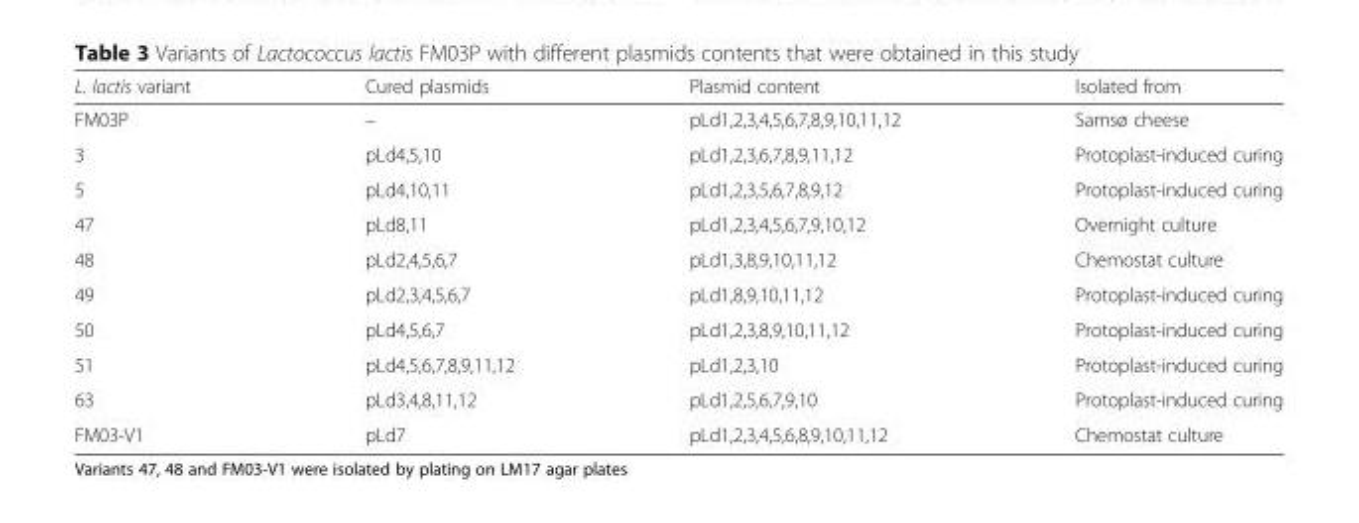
<table><thead><tr><td>L. lactis variant</td><td>Cured plasmids</td><td>Plasmid content</td><td>Isolated from</td></tr></thead><tbody><tr><td>FM03P</td><td>–</td><td>pLd1,2,3,4,5,6,7,8,9,10,11,12</td><td>Samsø cheese</td></tr><tr><td>3</td><td>pLd4,5,10</td><td>pLd1,2,3,6,7,8,9,11,12</td><td>Protoplast-induced curing</td></tr><tr><td>5</td><td>pLd4,10,11</td><td>pLd1,2,3,5,6,7,8,9,12</td><td>Protoplast-induced curing</td></tr><tr><td>47</td><td>pLd8,11</td><td>pLd1,2,3,4,5,6,7,9,10,12</td><td>Overnight culture</td></tr><tr><td>48</td><td>pLd2,4,5,6,7</td><td>pLd1,3,8,9,10,11,12</td><td>Chemostat culture</td></tr><tr><td>49</td><td>pLd2,3,4,5,6,7</td><td>pLd1,8,9,10,11,12</td><td>Protoplast-induced curing</td></tr><tr><td>50</td><td>pLd4,5,6,7</td><td>pLd1,2,3,8,9,10,11,12</td><td>Protoplast-induced curing</td></tr><tr><td>51</td><td>pLd4,5,6,7,8,9,11,12</td><td>pLd1,2,3,10</td><td>Protoplast-induced curing</td></tr><tr><td>63</td><td>pLd3,4,8,11,12</td><td>pLd1,2,5,6,7,9,10</td><td>Protoplast-induced curing</td></tr><tr><td>FM03-V1</td><td>pLd7</td><td>pLd1,2,3,4,5,6,8,9,10,11,12</td><td>Chemostat culture</td></tr></tbody></table>